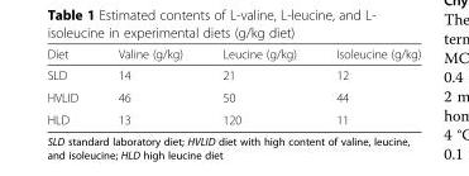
<table><thead><tr><td>Diet</td><td>Valine (g/kg)</td><td>Leucine (g/kg)</td><td>Isoleucine (g/kg)</td></tr></thead><tbody><tr><td>SLD</td><td>14</td><td>21</td><td>12</td></tr><tr><td>HVLID</td><td>46</td><td>50</td><td>44</td></tr><tr><td>HLD</td><td>13</td><td>120</td><td>11</td></tr></tbody></table>